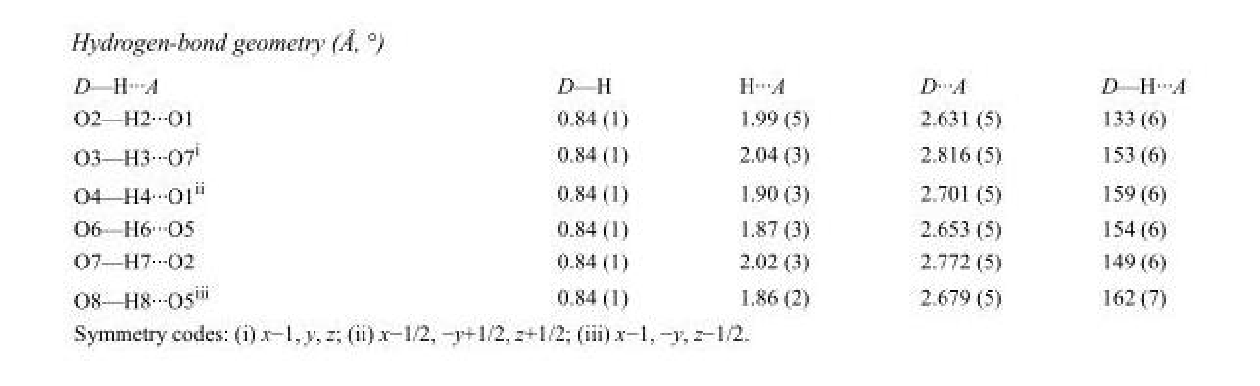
<table><tbody><tr><td>D—H···A</td><td>D—H</td><td>H···A</td><td>D···A</td><td>D—H···A</td></tr><tr><td>O2—H2···O1</td><td>0.84 (1)</td><td>1.99 (5)</td><td>2.631 (5)</td><td>133 (6)</td></tr><tr><td>O3—H3···O7<sup>i</sup></td><td>0.84 (1)</td><td>2.04 (3)</td><td>2.816 (5)</td><td>153 (6)</td></tr><tr><td>O4—H4···O1<sup>ii</sup></td><td>0.84 (1)</td><td>1.90 (3)</td><td>2.701 (5)</td><td>159 (6)</td></tr><tr><td>O6—H6···O5</td><td>0.84 (1)</td><td>1.87 (3)</td><td>2.653 (5)</td><td>154 (6)</td></tr><tr><td>O7—H7···O2</td><td>0.84 (1)</td><td>2.02 (3)</td><td>2.772 (5)</td><td>149 (6)</td></tr><tr><td>O8—H8···O5<sup>iii</sup></td><td>0.84 (1)</td><td>1.86 (2)</td><td>2.679 (5)</td><td>162 (7)</td></tr></tbody></table>